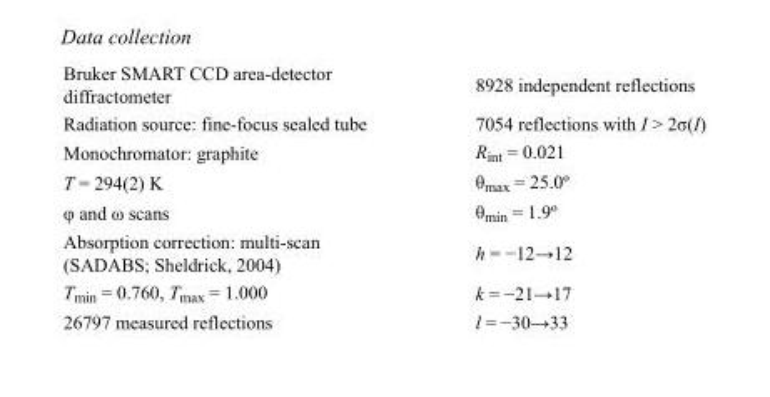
<table><tbody><tr><td>Bruker SMART CCD area-detector diffractometer</td><td>8928 independent reflections</td></tr><tr><td>Radiation source: fine-focus sealed tube</td><td>7054 reflections with I &gt; 2σ(I)</td></tr><tr><td>Monochromator: graphite</td><td>R<sub>int</sub> = 0.021</td></tr><tr><td>T = 294(2) K</td><td>θ<sub>max</sub> = 25.0º</td></tr><tr><td>φ and ω scans</td><td>θ<sub>min</sub> = 1.9º</td></tr><tr><td>Absorption correction: multi-scan (SADABS; Sheldrick, 2004)</td><td>h = −12→12</td></tr><tr><td>T<sub>min</sub> = 0.760, T<sub>max</sub> = 1.000</td><td>k = −21→17</td></tr><tr><td>26797 measured reflections</td><td>l = −30→33</td></tr></tbody></table>